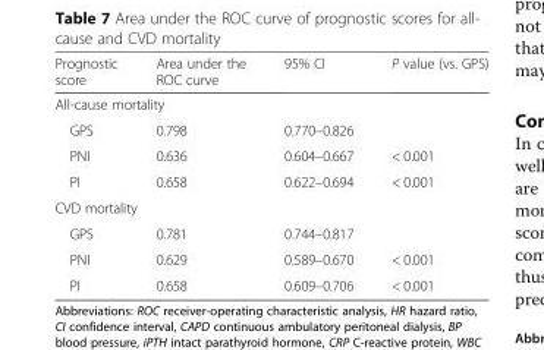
<table><thead><tr><td>Prognostic score</td><td>Area under the ROC curve</td><td>95% CI</td><td>P value (vs. GPS)</td></tr></thead><tbody><tr><td colspan="4">All-cause mortality</td></tr><tr><td>GPS</td><td>0.798</td><td>0.770–0.826</td><td></td></tr><tr><td>PNI</td><td>0.636</td><td>0.604–0.667</td><td>&lt; 0.001</td></tr><tr><td>PI</td><td>0.658</td><td>0.622–0.694</td><td>&lt; 0.001</td></tr><tr><td colspan="4">CVD mortality</td></tr><tr><td>GPS</td><td>0.781</td><td>0.744–0.817</td><td></td></tr><tr><td>PNI</td><td>0.629</td><td>0.589–0.670</td><td>&lt; 0.001</td></tr><tr><td>PI</td><td>0.658</td><td>0.609–0.706</td><td>&lt; 0.001</td></tr></tbody></table>